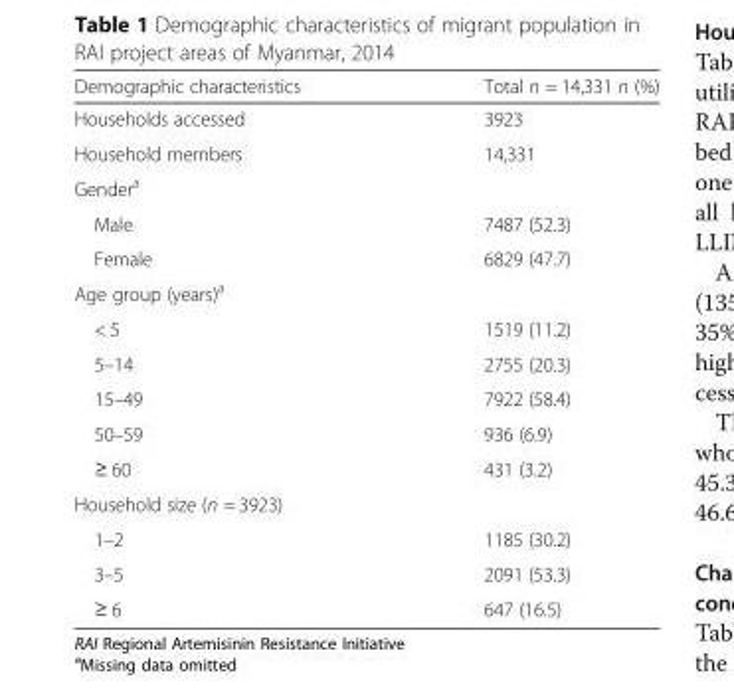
<table><thead><tr><td>Demographic characteristics</td><td>Total n = 14,331 n (%)</td></tr></thead><tbody><tr><td>Households accessed</td><td>3923</td></tr><tr><td>Household members</td><td>14,331</td></tr><tr><td colspan="2">Gender<sup>a</sup></td></tr><tr><td>Male</td><td>7487 (52.3)</td></tr><tr><td>Female</td><td>6829 (47.7)</td></tr><tr><td colspan="2">Age group (years)<sup>a</sup></td></tr><tr><td>&lt; 5</td><td>1519 (11.2)</td></tr><tr><td>5–14</td><td>2755 (20.3)</td></tr><tr><td>15–49</td><td>7922 (58.4)</td></tr><tr><td>50–59</td><td>936 (6.9)</td></tr><tr><td>≥ 60</td><td>431 (3.2)</td></tr><tr><td colspan="2">Household size (n = 3923)</td></tr><tr><td>1–2</td><td>1185 (30.2)</td></tr><tr><td>3–5</td><td>2091 (53.3)</td></tr><tr><td>≥ 6</td><td>647 (16.5)</td></tr></tbody></table>